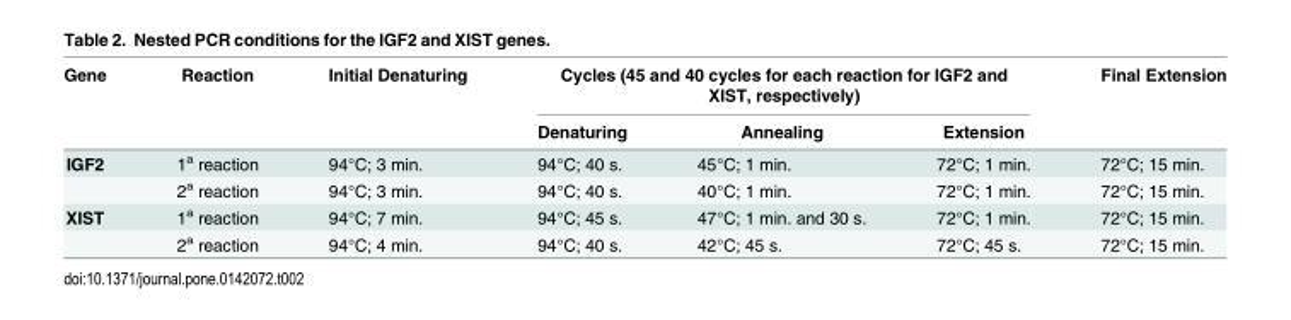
<table><thead><tr><td rowspan="2">Gene</td><td rowspan="2">Reaction</td><td rowspan="2">Initial Denaturing</td><td colspan="3">Cycles (45 and 40 cycles for each reaction for IGF2 and XIST, respectively)</td><td rowspan="2">Final Extension</td></tr><tr><td>Denaturing</td><td>Annealing</td><td>Extension</td></tr></thead><tbody><tr><td rowspan="2">IGF2</td><td>1<sup>a</sup> reaction</td><td>94°C; 3 min.</td><td>94°C; 40 s.</td><td>45°C; 1 min.</td><td>72°C; 1 min.</td><td>72°C; 15 min.</td></tr><tr><td>2<sup>a</sup> reaction</td><td>94°C; 3 min.</td><td>94°C; 40 s.</td><td>40°C; 1 min.</td><td>72°C; 1 min.</td><td>72°C; 15 min.</td></tr><tr><td rowspan="2">XIST</td><td>1<sup>a</sup> reaction</td><td>94°C; 7 min.</td><td>94°C; 45 s.</td><td>47°C; 1 min. and 30 s.</td><td>72°C; 1 min.</td><td>72°C; 15 min.</td></tr><tr><td>2<sup>a</sup> reaction</td><td>94°C; 4 min.</td><td>94°C; 40 s.</td><td>42°C; 45 s.</td><td>72°C; 45 s.</td><td>72°C; 15 min.</td></tr></tbody></table>